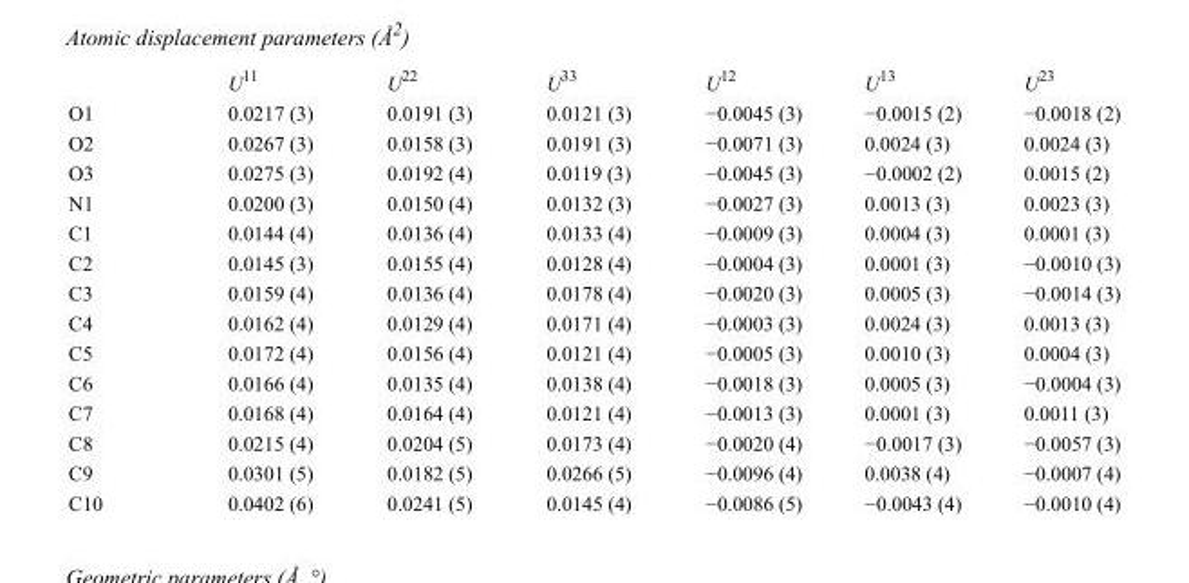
<table><thead><tr><td></td><td>U<sup>11</sup></td><td>U<sup>22</sup></td><td>U<sup>33</sup></td><td>U<sup>12</sup></td><td>U<sup>13</sup></td><td>U<sup>23</sup></td></tr></thead><tbody><tr><td>O1</td><td>0.0217 (3)</td><td>0.0191 (3)</td><td>0.0121 (3)</td><td>−0.0045 (3)</td><td>−0.0015 (2)</td><td>−0.0018 (2)</td></tr><tr><td>O2</td><td>0.0267 (3)</td><td>0.0158 (3)</td><td>0.0191 (3)</td><td>−0.0071 (3)</td><td>0.0024 (3)</td><td>0.0024 (3)</td></tr><tr><td>O3</td><td>0.0275 (3)</td><td>0.0192 (4)</td><td>0.0119 (3)</td><td>−0.0045 (3)</td><td>−0.0002 (2)</td><td>0.0015 (2)</td></tr><tr><td>N1</td><td>0.0200 (3)</td><td>0.0150 (4)</td><td>0.0132 (3)</td><td>−0.0027 (3)</td><td>0.0013 (3)</td><td>0.0023 (3)</td></tr><tr><td>C1</td><td>0.0144 (4)</td><td>0.0136 (4)</td><td>0.0133 (4)</td><td>−0.0009 (3)</td><td>0.0004 (3)</td><td>0.0001 (3)</td></tr><tr><td>C2</td><td>0.0145 (3)</td><td>0.0155 (4)</td><td>0.0128 (4)</td><td>−0.0004 (3)</td><td>0.0001 (3)</td><td>−0.0010 (3)</td></tr><tr><td>C3</td><td>0.0159 (4)</td><td>0.0136 (4)</td><td>0.0178 (4)</td><td>−0.0020 (3)</td><td>0.0005 (3)</td><td>−0.0014 (3)</td></tr><tr><td>C4</td><td>0.0162 (4)</td><td>0.0129 (4)</td><td>0.0171 (4)</td><td>−0.0003 (3)</td><td>0.0024 (3)</td><td>0.0013 (3)</td></tr><tr><td>C5</td><td>0.0172 (4)</td><td>0.0156 (4)</td><td>0.0121 (4)</td><td>−0.0005 (3)</td><td>0.0010 (3)</td><td>0.0004 (3)</td></tr><tr><td>C6</td><td>0.0166 (4)</td><td>0.0135 (4)</td><td>0.0138 (4)</td><td>−0.0018 (3)</td><td>0.0005 (3)</td><td>−0.0004 (3)</td></tr><tr><td>C7</td><td>0.0168 (4)</td><td>0.0164 (4)</td><td>0.0121 (4)</td><td>−0.0013 (3)</td><td>0.0001 (3)</td><td>0.0011 (3)</td></tr><tr><td>C8</td><td>0.0215 (4)</td><td>0.0204 (5)</td><td>0.0173 (4)</td><td>−0.0020 (4)</td><td>−0.0017 (3)</td><td>−0.0057 (3)</td></tr><tr><td>C9</td><td>0.0301 (5)</td><td>0.0182 (5)</td><td>0.0266 (5)</td><td>−0.0096 (4)</td><td>0.0038 (4)</td><td>−0.0007 (4)</td></tr><tr><td>C10</td><td>0.0402 (6)</td><td>0.0241 (5)</td><td>0.0145 (4)</td><td>−0.0086 (5)</td><td>−0.0043 (4)</td><td>−0.0010 (4)</td></tr></tbody></table>